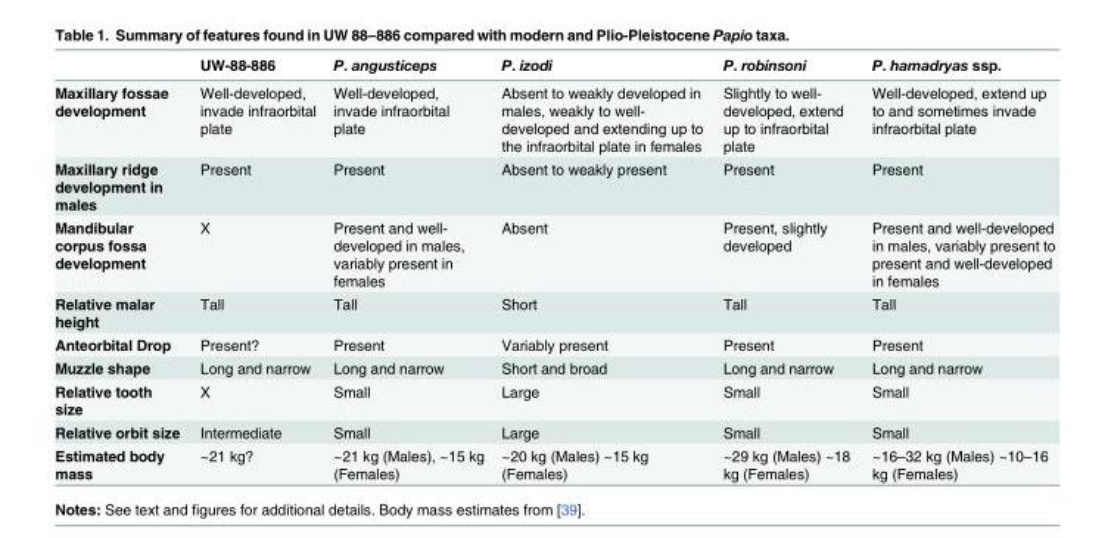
<table><thead><tr><td></td><td>UW-88-886</td><td>P. angusticeps</td><td>P. izodi</td><td>P. robinsoni</td><td>P. hamadryas ssp.</td></tr></thead><tbody><tr><td>Maxillary fossae development</td><td>Well-developed, invade infraorbital plate</td><td>Well-developed, invade infraorbital plate</td><td>Absent to weakly developed in males, weakly to well- developed and extending up to the infraorbital plate in females</td><td>Slightly to well- developed, extend up to infraorbital plate</td><td>Well-developed, extend up to and sometimes invade infraorbital plate</td></tr><tr><td>Maxillary ridge development in males</td><td>Present</td><td>Present</td><td>Absent to weakly present</td><td>Present</td><td>Present</td></tr><tr><td>Mandibular corpus fossa development</td><td>X</td><td>Present and well- developed in males, variably present in females</td><td>Absent</td><td>Present, slightly developed</td><td>Present and well-developed in males, variably present to present and well-developed in females</td></tr><tr><td>Relative malar height</td><td>Tall</td><td>Tall</td><td>Short</td><td>Tall</td><td>Tall</td></tr><tr><td>Anteorbital Drop</td><td>Present?</td><td>Present</td><td>Variably present</td><td>Present</td><td>Present</td></tr><tr><td>Muzzle shape</td><td>Long and narrow</td><td>Long and narrow</td><td>Short and broad</td><td>Long and narrow</td><td>Long and narrow</td></tr><tr><td>Relative tooth size</td><td>X</td><td>Small</td><td>Large</td><td>Small</td><td>Small</td></tr><tr><td>Relative orbit size</td><td>Intermediate</td><td>Small</td><td>Large</td><td>Small</td><td>Small</td></tr><tr><td>Estimated body mass</td><td>~21 kg?</td><td>~21 kg (Males), ~15 kg (Females)</td><td>~20 kg (Males) ~15 kg (Females)</td><td>~29 kg (Males) ~18 kg (Females)</td><td>~16–32 kg (Males) ~10–16 kg (Females)</td></tr></tbody></table>